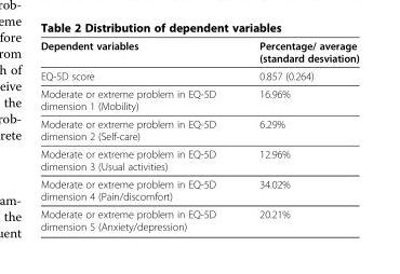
<table><thead><tr><td>Dependent variables</td><td>Percentage/ average (standard desviation)</td></tr></thead><tbody><tr><td>EQ-5D score</td><td>0.857 (0.264)</td></tr><tr><td>Moderate or extreme problem in EQ-5D dimension 1 (Mobility)</td><td>16.96%</td></tr><tr><td>Moderate or extreme problem in EQ-5D dimension 2 (Self-care)</td><td>6.29%</td></tr><tr><td>Moderate or extreme problem in EQ-5D dimension 3 (Usual activities)</td><td>12.96%</td></tr><tr><td>Moderate or extreme problem in EQ-5D dimension 4 (Pain/discomfort)</td><td>34.02%</td></tr><tr><td>Moderate or extreme problem in EQ-5D dimension 5 (Anxiety/depression)</td><td>20.21%</td></tr></tbody></table>